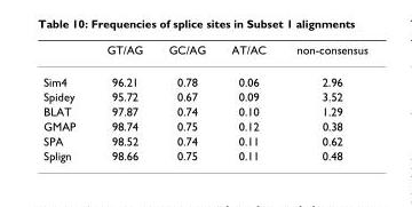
<table><thead><tr><td></td><td>GT/AG</td><td>GC/AG</td><td>AT/AC</td><td>non-consensus</td></tr></thead><tbody><tr><td>Sim4</td><td>96.21</td><td>0.78</td><td>0.06</td><td>2.96</td></tr><tr><td>Spidey</td><td>95.72</td><td>0.67</td><td>0.09</td><td>3.52</td></tr><tr><td>BLAT</td><td>97.87</td><td>0.74</td><td>0.10</td><td>1.29</td></tr><tr><td>GMAP</td><td>98.74</td><td>0.75</td><td>0.12</td><td>0.38</td></tr><tr><td>SPA</td><td>98.52</td><td>0.74</td><td>0.11</td><td>0.62</td></tr><tr><td>Splign</td><td>98.66</td><td>0.75</td><td>0.11</td><td>0.48</td></tr></tbody></table>